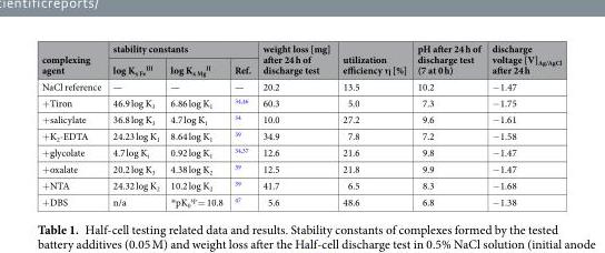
<table><thead><tr><td rowspan="2">complexing agent</td><td colspan="3">stability constants</td><td rowspan="2">weight loss [mg] after 24 h of discharge test</td><td rowspan="2">utilization efficiency η [%]</td><td rowspan="2">pH after 24 h of discharge test (7 at 0 h)</td><td rowspan="2">discharge voltage [V]<sub>Ag/AgCl</sub> after 24 h</td></tr><tr><td>log K<sub>x Fe</sub> <sup>III</sup></td><td>log K<sub>x Mg</sub> <sup>II</sup></td><td>Ref.</td></tr></thead><tbody><tr><td>NaCl reference</td><td>—</td><td>—</td><td>—</td><td>20.2</td><td>13.5</td><td>10.2</td><td>−1.47</td></tr><tr><td>+Tiron</td><td>46.9 log K<sub>3</sub></td><td>6.86 log K<sub>1</sub></td><td><sup>34,46</sup></td><td>60.3</td><td>5.0</td><td>7.3</td><td>−1.75</td></tr><tr><td>+salicylate</td><td>36.8 log K<sub>3</sub></td><td>4.7 log K<sub>1</sub></td><td><sup>34</sup></td><td>10.0</td><td>27.2</td><td>9.6</td><td>−1.61</td></tr><tr><td>+K<sub>2</sub>-EDTA</td><td>24.23 log K<sub>1</sub></td><td>8.64 log K<sub>1</sub></td><td><sup>39</sup></td><td>34.9</td><td>7.8</td><td>7.2</td><td>−1.58</td></tr><tr><td>+glycolate</td><td>4.7 log K<sub>i</sub></td><td>0.92 log K<sub>1</sub></td><td><sup>34,37</sup></td><td>12.6</td><td>21.6</td><td>9.8</td><td>−1.47</td></tr><tr><td>+oxalate</td><td>20.2 log K<sub>3</sub></td><td>4.38 log K<sub>2</sub></td><td><sup>39</sup></td><td>12.5</td><td>21.8</td><td>9.9</td><td>−1.47</td></tr><tr><td>+NTA</td><td>24.32 log K<sub>2</sub></td><td>10.2 log K<sub>2</sub></td><td><sup>39</sup></td><td>41.7</td><td>6.5</td><td>8.3</td><td>−1.68</td></tr><tr><td>+DBS</td><td>n/a</td><td>*pK<sub>0</sub> <sup>sp</sup> = 10.8</td><td><sup>47</sup></td><td>5.6</td><td>48.6</td><td>6.8</td><td>−1.38</td></tr></tbody></table>